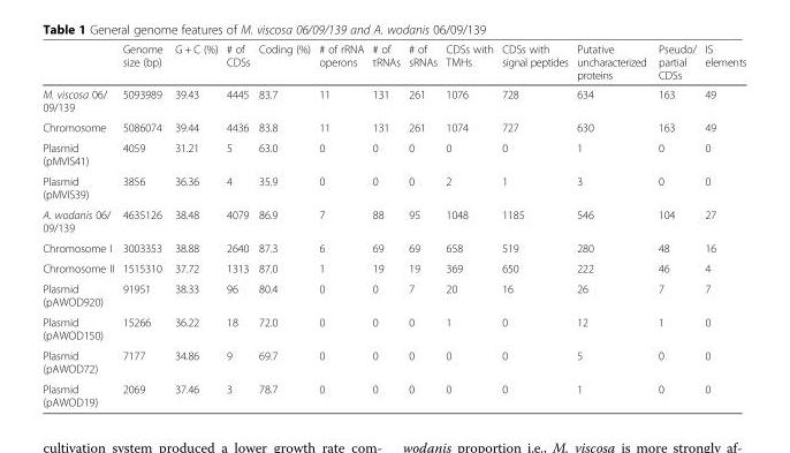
<table><thead><tr><td></td><td>Genome size (bp)</td><td>G + C (%)</td><td># of CDSs</td><td>Coding (%)</td><td># of rRNA operons</td><td># of tRNAs</td><td># of sRNAs</td><td>CDSs with TMHs</td><td>CDSs with signal peptides</td><td>Putative uncharacterized proteins</td><td>Pseudo/ partial CDSs</td><td>IS elements</td></tr></thead><tbody><tr><td>M. viscosa 06/ 09/139</td><td>5093989</td><td>39.43</td><td>4445</td><td>83.7</td><td>11</td><td>131</td><td>261</td><td>1076</td><td>728</td><td>634</td><td>163</td><td>49</td></tr><tr><td>Chromosome</td><td>5086074</td><td>39.44</td><td>4436</td><td>83.8</td><td>11</td><td>131</td><td>261</td><td>1074</td><td>727</td><td>630</td><td>163</td><td>49</td></tr><tr><td>Plasmid (pMVIS41)</td><td>4059</td><td>31.21</td><td>5</td><td>63.0</td><td>0</td><td>0</td><td>0</td><td>0</td><td>0</td><td>1</td><td>0</td><td>0</td></tr><tr><td>Plasmid (pMVIS39)</td><td>3856</td><td>36.36</td><td>4</td><td>35.9</td><td>0</td><td>0</td><td>0</td><td>2</td><td>1</td><td>3</td><td>0</td><td>0</td></tr><tr><td>A. wodanis 06/ 09/139</td><td>4635126</td><td>38.48</td><td>4079</td><td>86.9</td><td>7</td><td>88</td><td>95</td><td>1048</td><td>1185</td><td>546</td><td>104</td><td>27</td></tr><tr><td>Chromosome I</td><td>3003353</td><td>38.88</td><td>2640</td><td>87.3</td><td>6</td><td>69</td><td>69</td><td>658</td><td>519</td><td>280</td><td>48</td><td>16</td></tr><tr><td>Chromosome II</td><td>1515310</td><td>37.72</td><td>1313</td><td>87.0</td><td>1</td><td>19</td><td>19</td><td>369</td><td>650</td><td>222</td><td>46</td><td>4</td></tr><tr><td>Plasmid (pAWOD920)</td><td>91951</td><td>38.33</td><td>96</td><td>80.4</td><td>0</td><td>0</td><td>7</td><td>20</td><td>16</td><td>26</td><td>7</td><td>7</td></tr><tr><td>Plasmid (pAWOD150)</td><td>15266</td><td>36.22</td><td>18</td><td>72.0</td><td>0</td><td>0</td><td>0</td><td>1</td><td>0</td><td>12</td><td>1</td><td>0</td></tr><tr><td>Plasmid (pAWOD72)</td><td>7177</td><td>34.86</td><td>9</td><td>69.7</td><td>0</td><td>0</td><td>0</td><td>0</td><td>0</td><td>5</td><td>0</td><td>0</td></tr><tr><td>Plasmid (pAWOD19)</td><td>2069</td><td>37.46</td><td>3</td><td>78.7</td><td>0</td><td>0</td><td>0</td><td>0</td><td>0</td><td>1</td><td>0</td><td>0</td></tr></tbody></table>